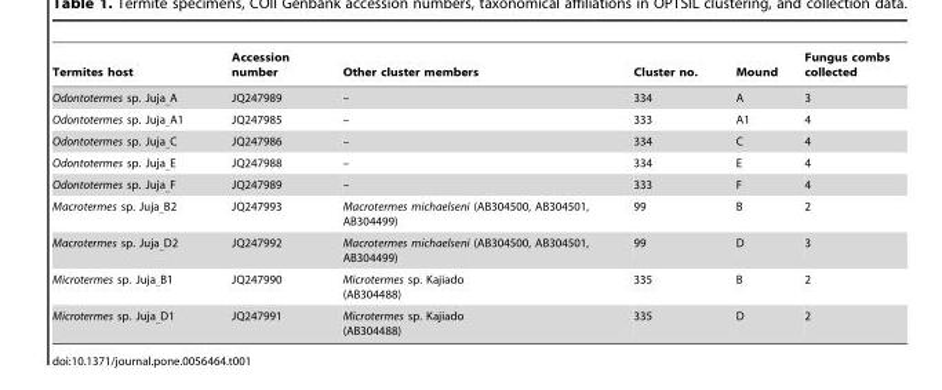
<table><thead><tr><td>Termites host</td><td>Accession number</td><td>Other cluster members</td><td>Cluster no.</td><td>Mound</td><td>Fungus combs collected</td></tr></thead><tbody><tr><td>Odontotermes sp. Juja<sub>_</sub>A</td><td>JQ247989</td><td>–</td><td>334</td><td>A</td><td>3</td></tr><tr><td>Odontotermes sp. Juja<sub>_</sub>A1</td><td>JQ247985</td><td>–</td><td>333</td><td>A1</td><td>4</td></tr><tr><td>Odontotermes sp. Juja<sub>_</sub>C</td><td>JQ247986</td><td>–</td><td>334</td><td>C</td><td>4</td></tr><tr><td>Odontotermes sp. Juja<sub>_</sub>E</td><td>JQ247988</td><td>–</td><td>334</td><td>E</td><td>4</td></tr><tr><td>Odontotermes sp. Juja<sub>_</sub>F</td><td>JQ247989</td><td>–</td><td>333</td><td>F</td><td>4</td></tr><tr><td>Macrotermes sp. Juja<sub>_</sub>B2</td><td>JQ247993</td><td>Macrotermes michaelseni (AB304500, AB304501, AB304499)</td><td>99</td><td>B</td><td>2</td></tr><tr><td>Macrotermes sp. Juja<sub>_</sub>D2</td><td>JQ247992</td><td>Macrotermes michaelseni (AB304500, AB304501, AB304499)</td><td>99</td><td>D</td><td>3</td></tr><tr><td>Microtermes sp. Juja<sub>_</sub>B1</td><td>JQ247990</td><td>Microtermes sp. Kajiado (AB304488)</td><td>335</td><td>B</td><td>2</td></tr><tr><td>Microtermes sp. Juja<sub>_</sub>D1</td><td>JQ247991</td><td>Microtermes sp. Kajiado (AB304488)</td><td>335</td><td>D</td><td>2</td></tr></tbody></table>